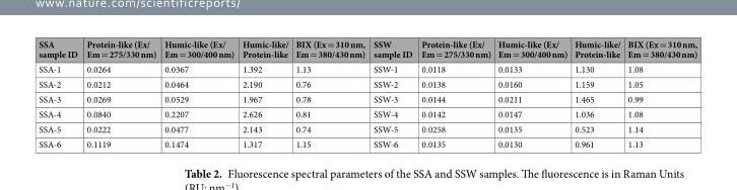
<table><thead><tr><td>SSA sample ID</td><td>Protein-like (Ex/ Em = 275/330 nm)</td><td>Humic-like (Ex/ Em = 300/400 nm)</td><td>Humic-like/ Protein-like</td><td>BIX (Ex = 310 nm, Em = 380/430 nm)</td><td>SSW sample ID</td><td>Protein-like (Ex/ Em = 275/330 nm)</td><td>Humic-like (Ex/ Em = 300/400 nm)</td><td>Humic-like/ Protein-like</td><td>BIX (Ex = 310 nm, Em = 380/430 nm)</td></tr></thead><tbody><tr><td>SSA-1</td><td>0.0264</td><td>0.0367</td><td>1.392</td><td>1.13</td><td>SSW-1</td><td>0.0118</td><td>0.0133</td><td>1.130</td><td>1.08</td></tr><tr><td>SSA-2</td><td>0.0212</td><td>0.0464</td><td>2.190</td><td>0.76</td><td>SSW-2</td><td>0.0138</td><td>0.0160</td><td>1.159</td><td>1.05</td></tr><tr><td>SSA-3</td><td>0.0269</td><td>0.0529</td><td>1.967</td><td>0.78</td><td>SSW-3</td><td>0.0144</td><td>0.0211</td><td>1.465</td><td>0.99</td></tr><tr><td>SSA-4</td><td>0.0840</td><td>0.2207</td><td>2.626</td><td>0.81</td><td>SSW-4</td><td>0.0142</td><td>0.0147</td><td>1.036</td><td>1.08</td></tr><tr><td>SSA-5</td><td>0.0222</td><td>0.0477</td><td>2.143</td><td>0.74</td><td>SSW-5</td><td>0.0258</td><td>0.0135</td><td>0.523</td><td>1.14</td></tr><tr><td>SSA-6</td><td>0.1119</td><td>0.1474</td><td>1.317</td><td>1.15</td><td>SSW-6</td><td>0.0135</td><td>0.0130</td><td>0.961</td><td>1.13</td></tr></tbody></table>